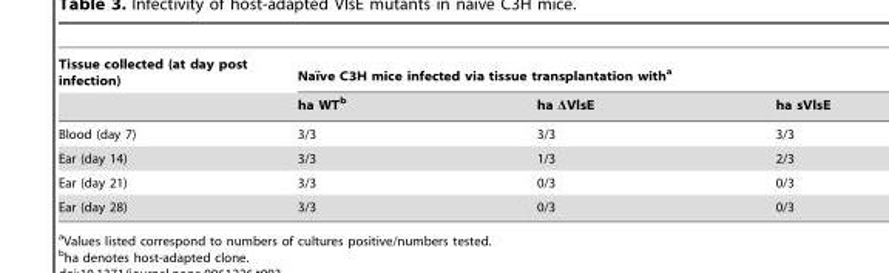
<table><thead><tr><td rowspan="2">Tissue collected (at day post infection)</td><td colspan="3">Naı¨ve C3H mice infected via tissue transplantation witha</td></tr><tr><td>ha WT<sup>b</sup></td><td>ha ΔVlsE</td><td>ha sVlsE</td></tr></thead><tbody><tr><td>Blood (day 7)</td><td>3/3</td><td>3/3</td><td>3/3</td></tr><tr><td>Ear (day 14)</td><td>3/3</td><td>1/3</td><td>2/3</td></tr><tr><td>Ear (day 21)</td><td>3/3</td><td>0/3</td><td>0/3</td></tr><tr><td>Ear (day 28)</td><td>3/3</td><td>0/3</td><td>0/3</td></tr></tbody></table>